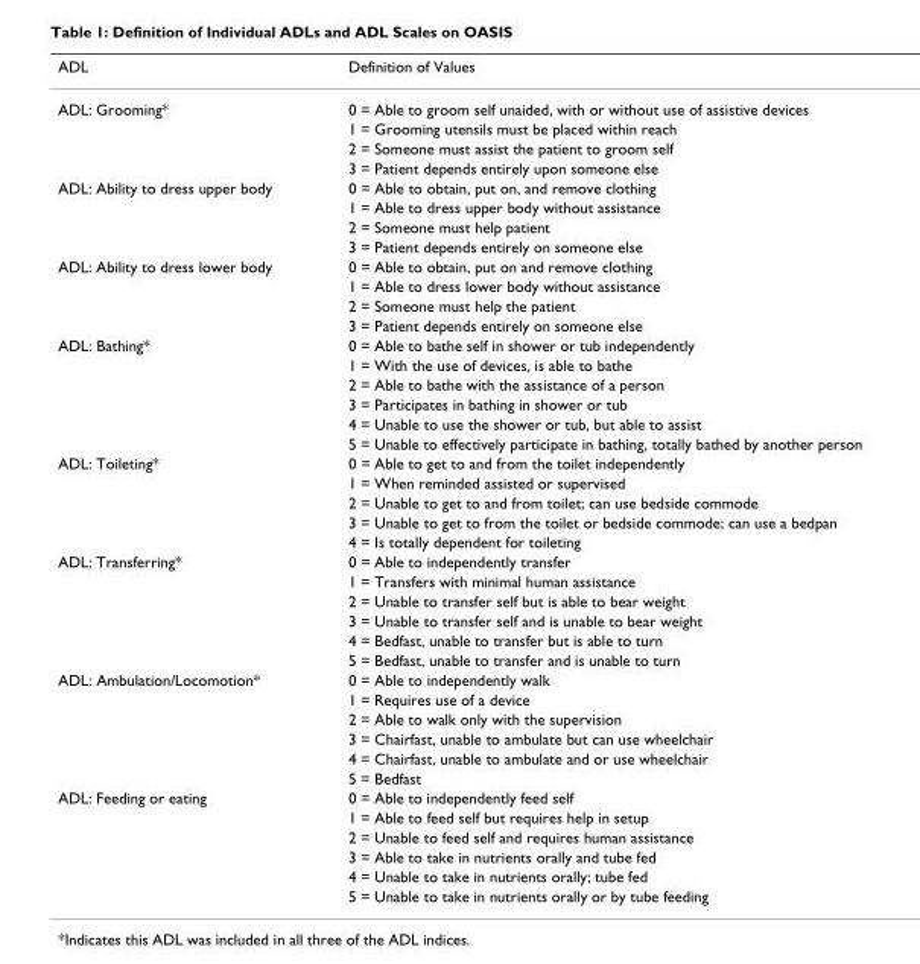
<table><thead><tr><td>ADL</td><td>Definition of Values</td></tr></thead><tbody><tr><td rowspan="4">ADL: Grooming*</td><td>0 = Able to groom self unaided, with or without use of assistive devices</td></tr><tr><td>1 = Grooming utensils must be placed within reach</td></tr><tr><td>2 = Someone must assist the patient to groom self</td></tr><tr><td>3 = Patient depends entirely upon someone else</td></tr><tr><td rowspan="4">ADL: Ability to dress upper body</td><td>0 = Able to obtain, put on, and remove clothing</td></tr><tr><td>1 = Able to dress upper body without assistance</td></tr><tr><td>2 = Someone must help patient</td></tr><tr><td>3 = Patient depends entirely on someone else</td></tr><tr><td rowspan="4">ADL: Ability to dress lower body</td><td>0 = Able to obtain, put on and remove clothing</td></tr><tr><td>1 = Able to dress lower body without assistance</td></tr><tr><td>2 = Someone must help the patient</td></tr><tr><td>3 = Patient depends entirely on someone else</td></tr><tr><td rowspan="6">ADL: Bathing*</td><td>0 = Able to bathe self in shower or tub independently</td></tr><tr><td>1 = With the use of devices, is able to bathe</td></tr><tr><td>2 = Able to bathe with the assistance of a person</td></tr><tr><td>3 = Participates in bathing in shower or tub</td></tr><tr><td>4 = Unable to use the shower or tub, but able to assist</td></tr><tr><td>5 = Unable to effectively participate in bathing, totally bathed by another person</td></tr><tr><td rowspan="5">ADL: Toileting*</td><td>0 = Able to get to and from the toilet independently</td></tr><tr><td>1 = When reminded assisted or supervised</td></tr><tr><td>2 = Unable to get to and from toilet; can use bedside commode</td></tr><tr><td>3 = Unable to get to from the toilet or bedside commode; can use a bedpan</td></tr><tr><td>4 = Is totally dependent for toileting</td></tr><tr><td rowspan="6">ADL: Transferring*</td><td>0 = Able to independently transfer</td></tr><tr><td>1 = Transfers with minimal human assistance</td></tr><tr><td>2 = Unable to transfer self but is able to bear weight</td></tr><tr><td>3 = Unable to transfer self and is unable to bear weight</td></tr><tr><td>4 = Bedfast, unable to transfer but is able to turn</td></tr><tr><td>5 = Bedfast, unable to transfer and is unable to turn</td></tr><tr><td rowspan="6">ADL: Ambulation/Locomotion*</td><td>0 = Able to independently walk</td></tr><tr><td>1 = Requires use of a device</td></tr><tr><td>2 = Able to walk only with the supervision</td></tr><tr><td>3 = Chairfast, unable to ambulate but can use wheelchair</td></tr><tr><td>4 = Chairfast, unable to ambulate and or use wheelchair</td></tr><tr><td>5 = Bedfast</td></tr><tr><td rowspan="6">ADL: Feeding or eating</td><td>0 = Able to independently feed self</td></tr><tr><td>1 = Able to feed self but requires help in setup</td></tr><tr><td>2 = Unable to feed self and requires human assistance</td></tr><tr><td>3 = Able to take in nutrients orally and tube fed</td></tr><tr><td>4 = Unable to take in nutrients orally; tube fed</td></tr><tr><td>5 = Unable to take in nutrients orally or by tube feeding</td></tr></tbody></table>